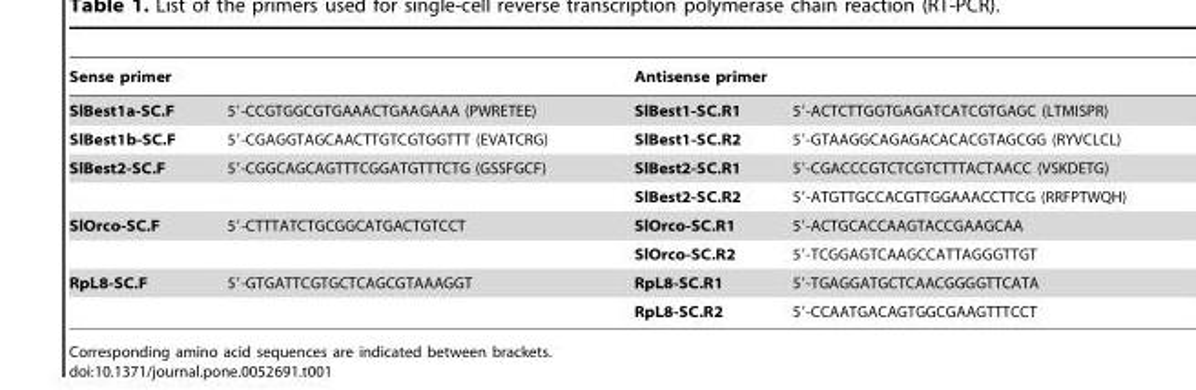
<table><thead><tr><td colspan="2">Sense primer</td><td colspan="2">Antisense primer</td></tr><tr><td>SlBest1a-SC.F</td><td>5′-CCGTGGCGTGAAACTGAAGAAA (PWRETEE)</td><td>SlBest1-SC.R1</td><td>5′-ACTCTTGGTGAGATCATCGTGAGC (LTMISPR)</td></tr></thead><tbody><tr><td>SlBest1b-SC.F</td><td>5′-CGAGGTAGCAACTTGTCGTGGTTT (EVATCRG)</td><td>SlBest1-SC.R2</td><td>5′-GTAAGGCAGAGACACACGTAGCGG (RYVCLCL)</td></tr><tr><td rowspan="2">SlBest2-SC.F</td><td>5′-CGGCAGCAGTTTCGGATGTTTCTG (GSSFGCF)</td><td>SlBest2-SC.R1</td><td>5′-CGACCCGTCTCGTCTTTACTAACC (VSKDETG)</td></tr><tr><td></td><td>SlBest2-SC.R2</td><td>5′-ATGTTGCCACGTTGGAAACCTTCG (RRFPTWQH)</td></tr><tr><td rowspan="2">SlOrco-SC.F</td><td>5′-CTTTATCTGCGGCATGACTGTCCT</td><td>SlOrco-SC.R1</td><td>5′-ACTGCACCAAGTACCGAAGCAA</td></tr><tr><td></td><td>SlOrco-SC.R2</td><td>5′-TCGGAGTCAAGCCATTAGGGTTGT</td></tr><tr><td rowspan="2">RpL8-SC.F</td><td>5′-GTGATTCGTGCTCAGCGTAAAGGT</td><td>RpL8-SC.R1</td><td>5′-TGAGGATGCTCAACGGGGTTCATA</td></tr><tr><td></td><td>RpL8-SC.R2</td><td>5′-CCAATGACAGTGGCGAAGTTTCCT</td></tr></tbody></table>